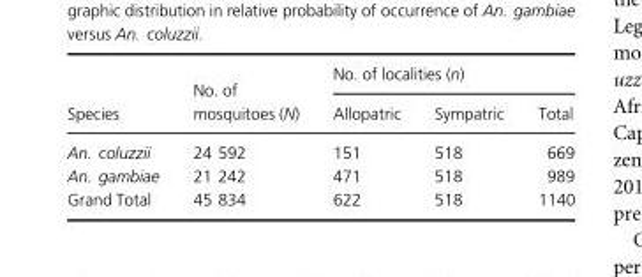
<table><thead><tr><td rowspan="2">Species</td><td rowspan="2">No. of mosquitoes (N)</td><td colspan="3">No. of localities (n)</td></tr><tr><td>Allopatric</td><td>Sympatric</td><td>Total</td></tr></thead><tbody><tr><td>An. coluzzii</td><td>24 592</td><td>151</td><td>518</td><td>669</td></tr><tr><td>An. gambiae</td><td>21 242</td><td>471</td><td>518</td><td>989</td></tr><tr><td>Grand Total</td><td>45 834</td><td>622</td><td>518</td><td>1140</td></tr></tbody></table>